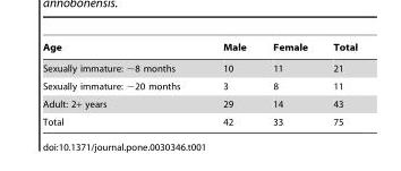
<table><thead><tr><td>Age</td><td>Male</td><td>Female</td><td>Total</td></tr></thead><tbody><tr><td>Sexually immature: ∼8 months</td><td>10</td><td>11</td><td>21</td></tr><tr><td>Sexually immature: ∼20 months</td><td>3</td><td>8</td><td>11</td></tr><tr><td>Adult: 2+ years</td><td>29</td><td>14</td><td>43</td></tr><tr><td>Total</td><td>42</td><td>33</td><td>75</td></tr></tbody></table>